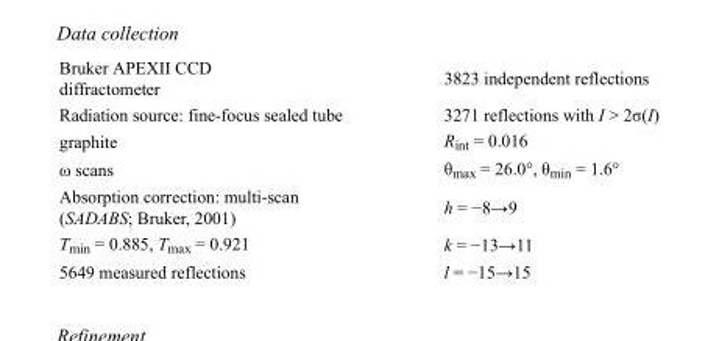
<table><tbody><tr><td>Bruker APEXII CCD diffractometer</td><td>3823 independent reflections</td></tr><tr><td>Radiation source: fine-focus sealed tube</td><td>3271 reflections with I &gt; 2σ(I)</td></tr><tr><td>graphite</td><td>R<sub>int</sub> = 0.016</td></tr><tr><td>ω scans</td><td>θ<sub>max</sub> = 26.0°, θ<sub>min</sub> = 1.6°</td></tr><tr><td>Absorption correction: multi-scan (SADABS; Bruker, 2001)</td><td>h = −8→9</td></tr><tr><td>T<sub>min</sub> = 0.885, T<sub>max</sub> = 0.921</td><td>k = −13→11</td></tr><tr><td>5649 measured reflections</td><td>l = −15→15</td></tr></tbody></table>